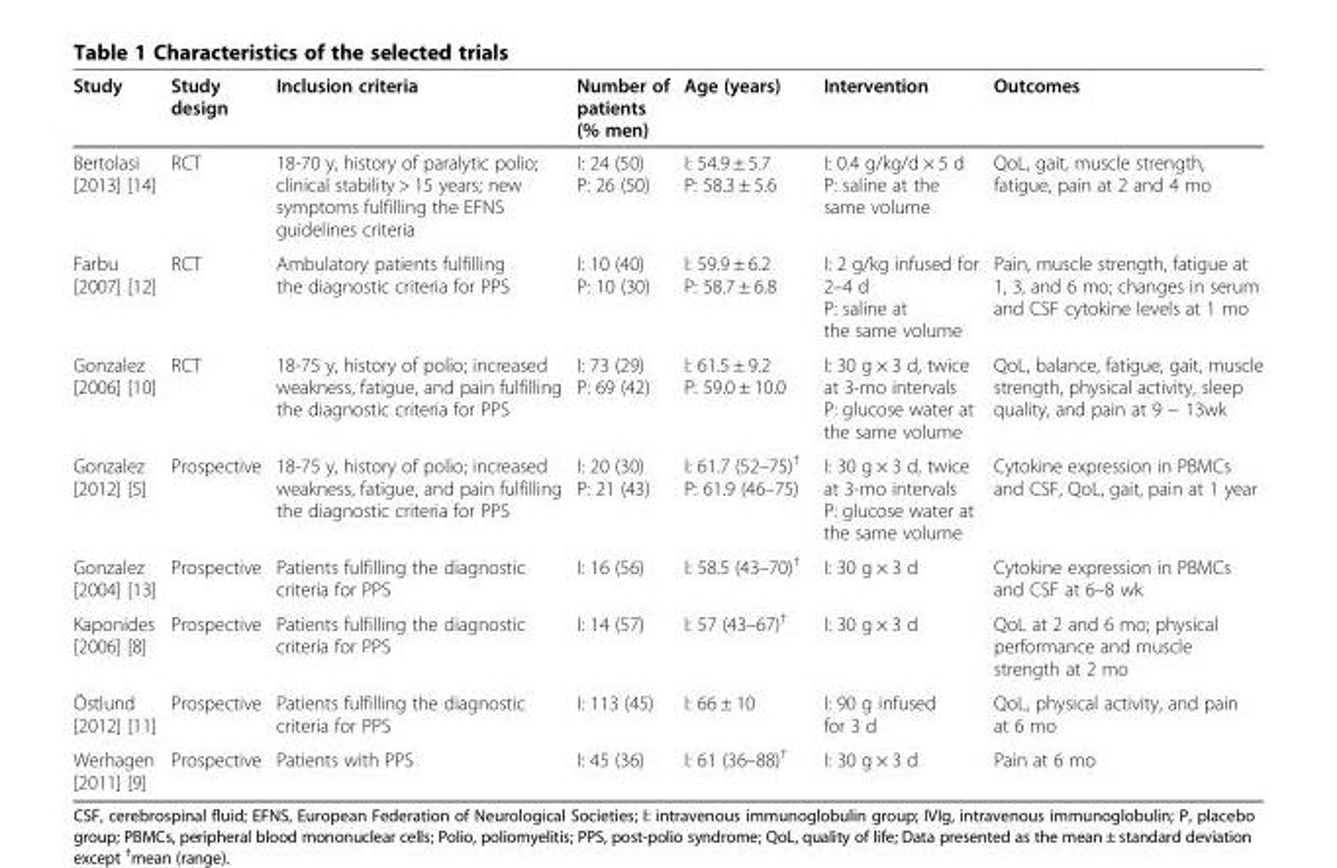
<table><thead><tr><td>Study</td><td>Study design</td><td>Inclusion criteria</td><td>Number of patients (% men)</td><td>Age (years)</td><td>Intervention</td><td>Outcomes</td></tr></thead><tbody><tr><td>Bertolasi [2013] [14]</td><td>RCT</td><td>18-70 y, history of paralytic polio; clinical stability &gt; 15 years; new symptoms fulfilling the EFNS guidelines criteria</td><td>I: 24 (50) P: 26 (50)</td><td>I: 54.9 ± 5.7 P: 58.3 ± 5.6</td><td>I: 0.4 g/kg/d × 5 d P: saline at the same volume</td><td>QoL, gait, muscle strength, fatigue, pain at 2 and 4 mo</td></tr><tr><td>Farbu [2007] [12]</td><td>RCT</td><td>Ambulatory patients fulfilling the diagnostic criteria for PPS</td><td>I: 10 (40) P: 10 (30)</td><td>I: 59.9 ± 6.2 P: 58.7 ± 6.8</td><td>I: 2 g/kg infused for 2–4 d P: saline at the same volume</td><td>Pain, muscle strength, fatigue at 1, 3, and 6 mo; changes in serum and CSF cytokine levels at 1 mo</td></tr><tr><td>Gonzalez [2006] [10]</td><td>RCT</td><td>18-75 y, history of polio; increased weakness, fatigue, and pain fulfilling the diagnostic criteria for PPS</td><td>I: 73 (29) P: 69 (42)</td><td>I: 61.5 ± 9.2 P: 59.0 ± 10.0</td><td>I: 30 g × 3 d, twice at 3-mo intervals P: glucose water at the same volume</td><td>QoL, balance, fatigue, gait, muscle strength, physical activity, sleep quality, and pain at 9 − 13wk</td></tr><tr><td>Gonzalez [2012] [5]</td><td>Prospective</td><td>18-75 y, history of polio; increased weakness, fatigue, and pain fulfilling the diagnostic criteria for PPS</td><td>I: 20 (30) P: 21 (43)</td><td>I: 61.7 (52–75)<sup>†</sup> P: 61.9 (46–75)</td><td>I: 30 g × 3 d, twice at 3-mo intervals P: glucose water at the same volume</td><td>Cytokine expression in PBMCs and CSF, QoL, gait, pain at 1 year</td></tr><tr><td>Gonzalez [2004] [13]</td><td>Prospective</td><td>Patients fulfilling the diagnostic criteria for PPS</td><td>I: 16 (56)</td><td>I: 58.5 (43–70)<sup>†</sup></td><td>I: 30 g × 3 d</td><td>Cytokine expression in PBMCs and CSF at 6–8 wk</td></tr><tr><td>Kaponides [2006] [8]</td><td>Prospective</td><td>Patients fulfilling the diagnostic criteria for PPS</td><td>I: 14 (57)</td><td>I: 57 (43–67)<sup>†</sup></td><td>I: 30 g × 3 d</td><td>QoL at 2 and 6 mo; physical performance and muscle strength at 2 mo</td></tr><tr><td>Östlund [2012] [11]</td><td>Prospective</td><td>Patients fulfilling the diagnostic criteria for PPS</td><td>I: 113 (45)</td><td>I: 66 ± 10</td><td>I: 90 g infused for 3 d</td><td>QoL, physical activity, and pain at 6 mo</td></tr><tr><td>Werhagen [2011] [9]</td><td>Prospective</td><td>Patients with PPS</td><td>I: 45 (36)</td><td>I: 61 (36–88)<sup>†</sup></td><td>I: 30 g × 3 d</td><td>Pain at 6 mo</td></tr></tbody></table>